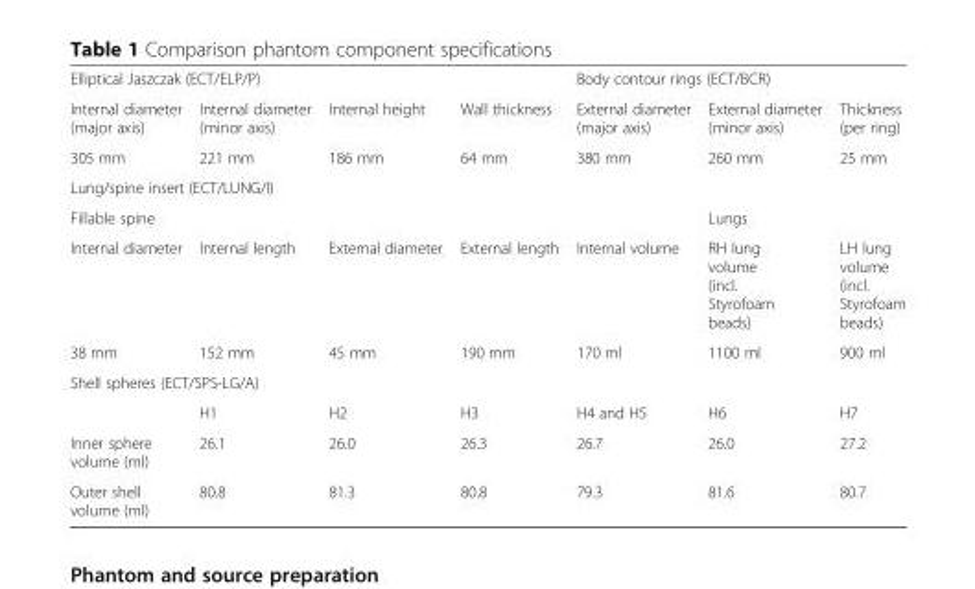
<table><tbody><tr><td colspan="4">Elliptical Jaszczak (ECT/ELP/P)</td><td colspan="3">Body contour rings (ECT/BCR)</td></tr><tr><td>Internal diameter (major axis)</td><td>Internal diameter (minor axis)</td><td>Internal height</td><td>Wall thickness</td><td>External diameter (major axis)</td><td>External diameter (minor axis)</td><td>Thickness (per ring)</td></tr><tr><td>305 mm</td><td>221 mm</td><td>186 mm</td><td>64 mm</td><td>380 mm</td><td>260 mm</td><td>25 mm</td></tr><tr><td colspan="7">Lung/spine insert (ECT/LUNG/I)</td></tr><tr><td colspan="5">Fillable spine</td><td colspan="2">Lungs</td></tr><tr><td>Internal diameter</td><td>Internal length</td><td>External diameter</td><td>External length</td><td>Internal volume</td><td>RH lung volume (incl. Styrofoam beads)</td><td>LH lung volume (incl. Styrofoam beads)</td></tr><tr><td>38 mm</td><td>152 mm</td><td>45 mm</td><td>190 mm</td><td>170 ml</td><td>1100 ml</td><td>900 ml</td></tr><tr><td colspan="7">Shell spheres (ECT/SPS-LG/A)</td></tr><tr><td></td><td>H1</td><td>H2</td><td>H3</td><td>H4 and H5</td><td>H6</td><td>H7</td></tr><tr><td>Inner sphere volume (ml)</td><td>26.1</td><td>26.0</td><td>26.3</td><td>26.7</td><td>26.0</td><td>27.2</td></tr><tr><td>Outer shell volume (ml)</td><td>80.8</td><td>81.3</td><td>80.8</td><td>79.3</td><td>81.6</td><td>80.7</td></tr></tbody></table>